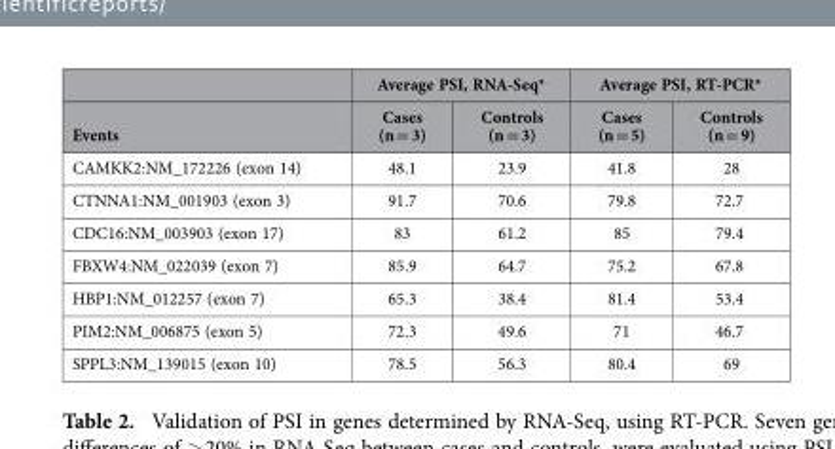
<table><thead><tr><td rowspan="2">Events</td><td colspan="2">Average PSI, RNA-Seq*</td><td colspan="2">Average PSI, RT-PCR*</td></tr><tr><td>Cases (n = 3)</td><td>Controls (n = 3)</td><td>Cases (n = 5)</td><td>Controls (n = 9)</td></tr></thead><tbody><tr><td>CAMKK2:NM_172226 (exon 14)</td><td>48.1</td><td>23.9</td><td>41.8</td><td>28</td></tr><tr><td>CTNNA1:NM_001903 (exon 3)</td><td>91.7</td><td>70.6</td><td>79.8</td><td>72.7</td></tr><tr><td>CDC16:NM_003903 (exon 17)</td><td>83</td><td>61.2</td><td>85</td><td>79.4</td></tr><tr><td>FBXW4:NM_022039 (exon 7)</td><td>85.9</td><td>64.7</td><td>75.2</td><td>67.8</td></tr><tr><td>HBP1:NM_012257 (exon 7)</td><td>65.3</td><td>38.4</td><td>81.4</td><td>53.4</td></tr><tr><td>PIM2:NM_006875 (exon 5)</td><td>72.3</td><td>49.6</td><td>71</td><td>46.7</td></tr><tr><td>SPPL3:NM_139015 (exon 10)</td><td>78.5</td><td>56.3</td><td>80.4</td><td>69</td></tr></tbody></table>